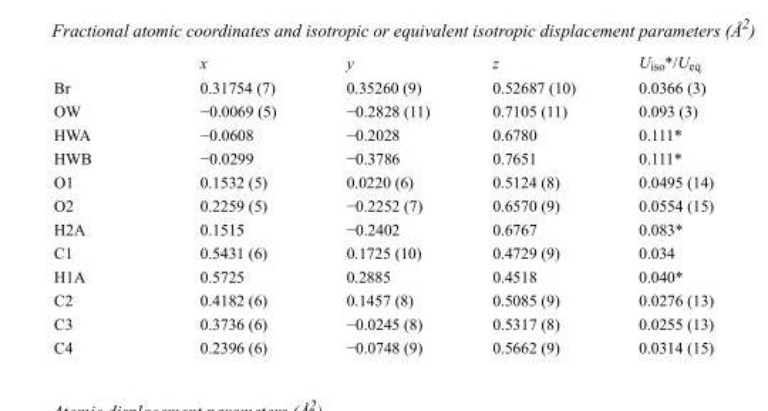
<table><thead><tr><td></td><td>x</td><td>y</td><td>z</td><td>U<sub>iso</sub>*/U<sub>eq</sub></td></tr></thead><tbody><tr><td>Br</td><td>0.31754 (7)</td><td>0.35260 (9)</td><td>0.52687 (10)</td><td>0.0366 (3)</td></tr><tr><td>OW</td><td>−0.0069 (5)</td><td>−0.2828 (11)</td><td>0.7105 (11)</td><td>0.093 (3)</td></tr><tr><td>HWA</td><td>−0.0608</td><td>−0.2028</td><td>0.6780</td><td>0.111*</td></tr><tr><td>HWB</td><td>−0.0299</td><td>−0.3786</td><td>0.7651</td><td>0.111*</td></tr><tr><td>O1</td><td>0.1532 (5)</td><td>0.0220 (6)</td><td>0.5124 (8)</td><td>0.0495 (14)</td></tr><tr><td>O2</td><td>0.2259 (5)</td><td>−0.2252 (7)</td><td>0.6570 (9)</td><td>0.0554 (15)</td></tr><tr><td>H2A</td><td>0.1515</td><td>−0.2402</td><td>0.6767</td><td>0.083*</td></tr><tr><td>C1</td><td>0.5431 (6)</td><td>0.1725 (10)</td><td>0.4729 (9)</td><td>0.034</td></tr><tr><td>H1A</td><td>0.5725</td><td>0.2885</td><td>0.4518</td><td>0.040*</td></tr><tr><td>C2</td><td>0.4182 (6)</td><td>0.1457 (8)</td><td>0.5085 (9)</td><td>0.0276 (13)</td></tr><tr><td>C3</td><td>0.3736 (6)</td><td>−0.0245 (8)</td><td>0.5317 (8)</td><td>0.0255 (13)</td></tr><tr><td>C4</td><td>0.2396 (6)</td><td>−0.0748 (9)</td><td>0.5662 (9)</td><td>0.0314 (15)</td></tr></tbody></table>